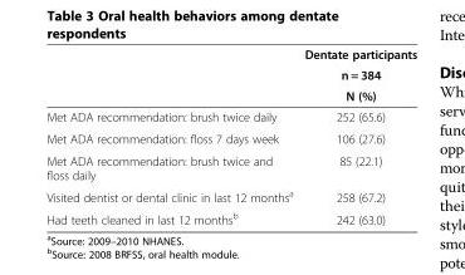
<table><thead><tr><td rowspan="3"></td><td rowspan="3">Dentate participants n = 384 N (%)</td></tr><tr></tr><tr></tr></thead><tbody><tr><td>Met ADA recommendation: brush twice daily</td><td>252 (65.6)</td></tr><tr><td>Met ADA recommendation: floss 7 days week</td><td>106 (27.6)</td></tr><tr><td>Met ADA recommendation: brush twice and floss daily</td><td>85 (22.1)</td></tr><tr><td>Visited dentist or dental clinic in last 12 months<sup>a</sup></td><td>258 (67.2)</td></tr><tr><td>Had teeth cleaned in last 12 months<sup>b</sup></td><td>242 (63.0)</td></tr></tbody></table>